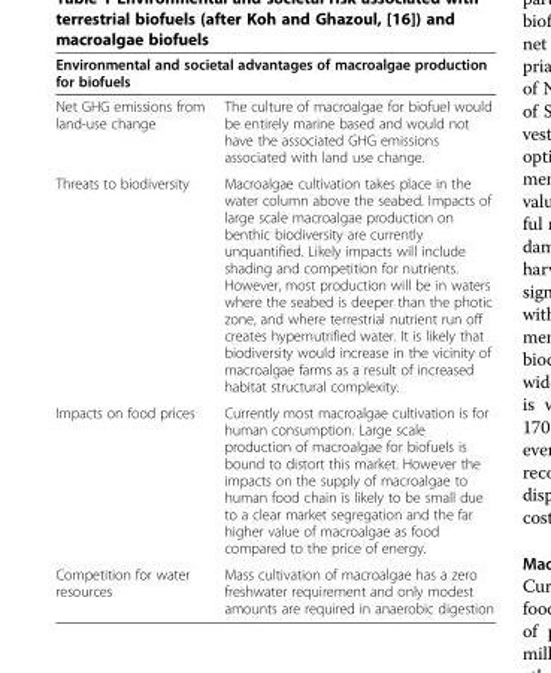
<table><thead><tr><td colspan="2">Environmental and societal advantages of macroalgae production for biofuels</td></tr><tr><td>Net GHG emissions from land-use change</td><td>The culture of macroalgae for biofuel would be entirely marine based and would not have the associated GHG emissions associated with land use change.</td></tr></thead><tbody><tr><td>Threats to biodiversity</td><td>Macroalgae cultivation takes place in the water column above the seabed. Impacts of large scale macroalgae production on benthic biodiversity are currently unquantified. Likely impacts will include shading and competition for nutrients. However, most production will be in waters where the seabed is deeper than the photic zone, and where terrestrial nutrient run off creates hypernutrified water. It is likely that biodiversity would increase in the vicinity of macroalgae farms as a result of increased habitat structural complexity.</td></tr><tr><td>Impacts on food prices</td><td>Currently most macroalgae cultivation is for human consumption. Large scale production of macroalgae for biofuels is bound to distort this market. However the impacts on the supply of macroalgae to human food chain is likely to be small due to a clear market segregation and the far higher value of macroalgae as food compared to the price of energy.</td></tr><tr><td>Competition for water resources</td><td>Mass cultivation of macroalgae has a zero freshwater requirement and only modest amounts are required in anaerobic digestion</td></tr></tbody></table>